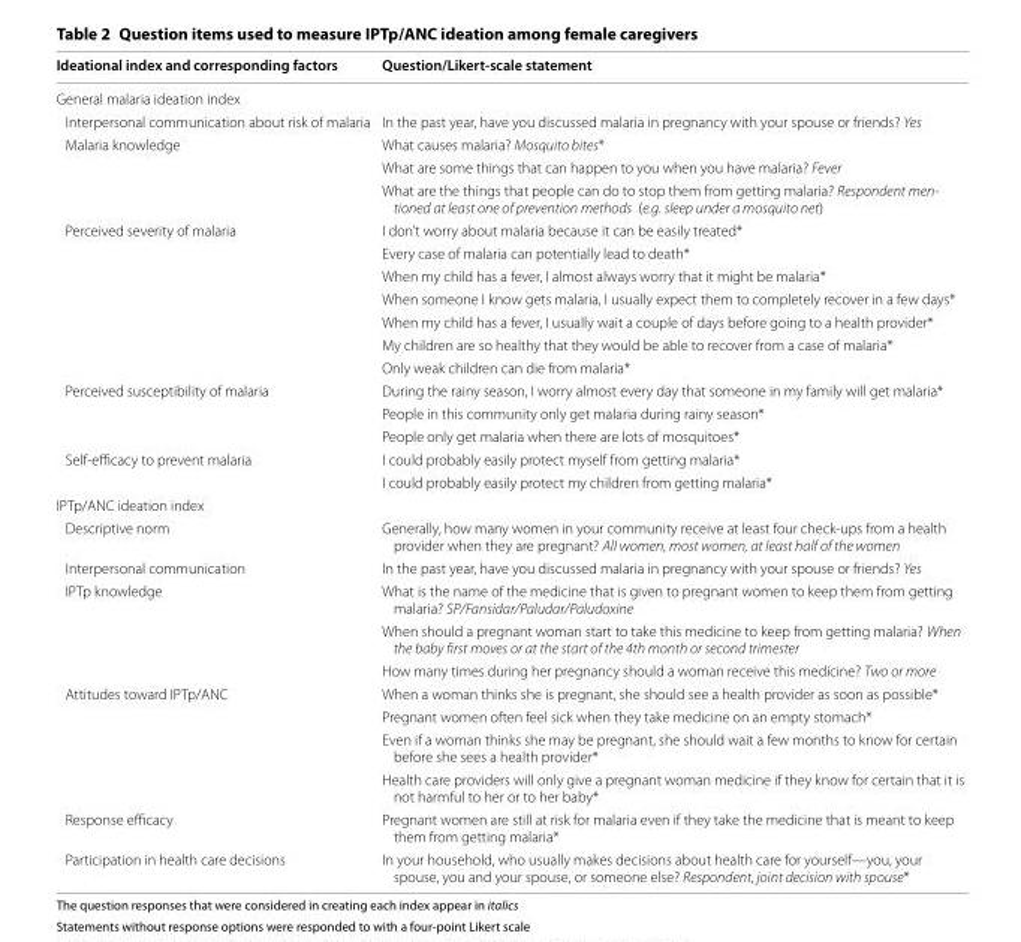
<table><thead><tr><td>Ideational index and corresponding factors</td><td>Question/Likert-scale statement</td></tr></thead><tbody><tr><td colspan="2">General malaria ideation index</td></tr><tr><td>Interpersonal communication about risk of malaria</td><td>In the past year, have you discussed malaria in pregnancy with your spouse or friends? Yes</td></tr><tr><td rowspan="3">Malaria knowledge</td><td>What causes malaria? Mosquito bites*</td></tr><tr><td>What are some things that can happen to you when you have malaria? Fever</td></tr><tr><td>What are the things that people can do to stop them from getting malaria? Respondent men- tioned at least one of prevention methods (e.g. sleep under a mosquito net)</td></tr><tr><td rowspan="7">Perceived severity of malaria</td><td>I don’t worry about malaria because it can be easily treated*</td></tr><tr><td>Every case of malaria can potentially lead to death*</td></tr><tr><td>When my child has a fever, I almost always worry that it might be malaria*</td></tr><tr><td>When someone I know gets malaria, I usually expect them to completely recover in a few days*</td></tr><tr><td>When my child has a fever, I usually wait a couple of days before going to a health provider*</td></tr><tr><td>My children are so healthy that they would be able to recover from a case of malaria*</td></tr><tr><td>Only weak children can die from malaria*</td></tr><tr><td rowspan="3">Perceived susceptibility of malaria</td><td>During the rainy season, I worry almost every day that someone in my family will get malaria*</td></tr><tr><td>People in this community only get malaria during rainy season*</td></tr><tr><td>People only get malaria when there are lots of mosquitoes*</td></tr><tr><td rowspan="2">Self-efficacy to prevent malaria</td><td>I could probably easily protect myself from getting malaria*</td></tr><tr><td>I could probably easily protect my children from getting malaria*</td></tr><tr><td colspan="2">IPTp/ANC ideation index</td></tr><tr><td>Descriptive norm</td><td>Generally, how many women in your community receive at least four check-ups from a health provider when they are pregnant? All women, most women, at least half of the women</td></tr><tr><td>Interpersonal communication</td><td>In the past year, have you discussed malaria in pregnancy with your spouse or friends? Yes</td></tr><tr><td rowspan="3">IPTp knowledge</td><td>What is the name of the medicine that is given to pregnant women to keep them from getting malaria? SP/Fansidar/Paludar/Paludoxine</td></tr><tr><td>When should a pregnant woman start to take this medicine to keep from getting malaria? When the baby first moves or at the start of the 4th month or second trimester</td></tr><tr><td>How many times during her pregnancy should a woman receive this medicine? Two or more</td></tr><tr><td rowspan="4">Attitudes toward IPTp/ANC</td><td>When a woman thinks she is pregnant, she should see a health provider as soon as possible*</td></tr><tr><td>Pregnant women often feel sick when they take medicine on an empty stomach*</td></tr><tr><td>Even if a woman thinks she may be pregnant, she should wait a few months to know for certain before she sees a health provider*</td></tr><tr><td>Health care providers will only give a pregnant woman medicine if they know for certain that it is not harmful to her or to her baby*</td></tr><tr><td>Response efficacy</td><td>Pregnant women are still at risk for malaria even if they take the medicine that is meant to keep them from getting malaria*</td></tr><tr><td>Participation in health care decisions</td><td>In your household, who usually makes decisions about health care for yourself—you, your spouse, you and your spouse, or someone else? Respondent, joint decision with spouse*</td></tr></tbody></table>